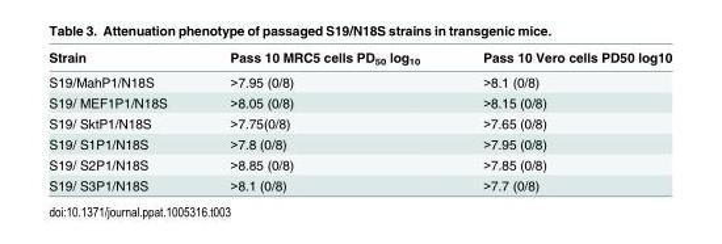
<table><thead><tr><td>Strain</td><td>Pass 10 MRC5 cells PD<sub>50</sub> log<sub>10</sub></td><td>Pass 10 Vero cells PD50 log10</td></tr></thead><tbody><tr><td>S19/MahP1/N18S</td><td>&gt;7.95 (0/8)</td><td>&gt;8.1 (0/8)</td></tr><tr><td>S19/ MEF1P1/N18S</td><td>&gt;8.05 (0/8)</td><td>&gt;8.15 (0/8)</td></tr><tr><td>S19/ SktP1/N18S</td><td>&gt;7.75(0/8)</td><td>&gt;7.65 (0/8)</td></tr><tr><td>S19/ S1P1/N18S</td><td>&gt;7.8 (0/8)</td><td>&gt;7.95 (0/8)</td></tr><tr><td>S19/ S2P1/N18S</td><td>&gt;8.85 (0/8)</td><td>&gt;7.85 (0/8)</td></tr><tr><td>S19/ S3P1/N18S</td><td>&gt;8.1 (0/8)</td><td>&gt;7.7 (0/8)</td></tr></tbody></table>